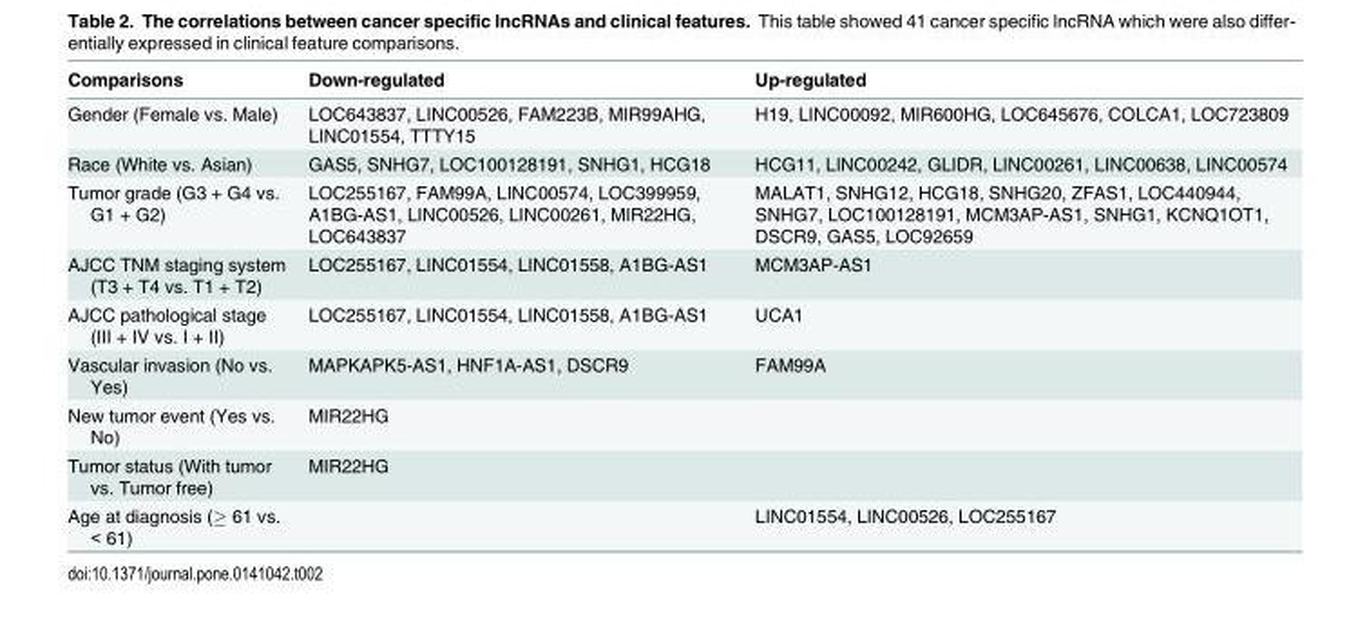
<table><thead><tr><td>Comparisons</td><td>Down-regulated</td><td>Up-regulated</td></tr></thead><tbody><tr><td>Gender (Female vs. Male)</td><td>LOC643837, LINC00526, FAM223B, MIR99AHG, LINC01554, TTTY15</td><td>H19, LINC00092, MIR600HG, LOC645676, COLCA1, LOC723809</td></tr><tr><td>Race (White vs. Asian)</td><td>GAS5, SNHG7, LOC100128191, SNHG1, HCG18</td><td>HCG11, LINC00242, GLIDR, LINC00261, LINC00638, LINC00574</td></tr><tr><td>Tumor grade (G3 + G4 vs. G1 + G2)</td><td>LOC255167, FAM99A, LINC00574, LOC399959, A1BG-AS1, LINC00526, LINC00261, MIR22HG, LOC643837</td><td>MALAT1, SNHG12, HCG18, SNHG20, ZFAS1, LOC440944, SNHG7, LOC100128191, MCM3AP-AS1, SNHG1, KCNQ1OT1, DSCR9, GAS5, LOC92659</td></tr><tr><td>AJCC TNM staging system (T3 + T4 vs. T1 + T2)</td><td>LOC255167, LINC01554, LINC01558, A1BG-AS1</td><td>MCM3AP-AS1</td></tr><tr><td>AJCC pathological stage (III + IV vs. I + II)</td><td>LOC255167, LINC01554, LINC01558, A1BG-AS1</td><td>UCA1</td></tr><tr><td>Vascular invasion (No vs. Yes)</td><td>MAPKAPK5-AS1, HNF1A-AS1, DSCR9</td><td>FAM99A</td></tr><tr><td>New tumor event (Yes vs. No)</td><td>MIR22HG</td><td></td></tr><tr><td>Tumor status (With tumor vs. Tumor free)</td><td>MIR22HG</td><td></td></tr><tr><td>Age at diagnosis (≥ 61 vs. &lt; 61)</td><td></td><td>LINC01554, LINC00526, LOC255167</td></tr></tbody></table>